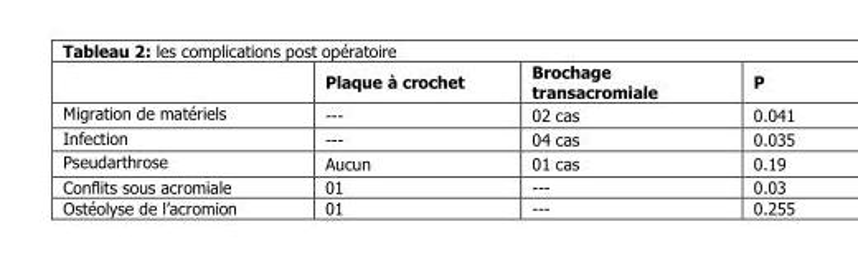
<table><thead><tr><td></td><td>Plaque à crochet</td><td>Brochage transacromiale</td><td>P</td></tr></thead><tbody><tr><td>Migration de matériels</td><td>---</td><td>02 cas</td><td>0.041</td></tr><tr><td>Infection</td><td>---</td><td>04 cas</td><td>0.035</td></tr><tr><td>Pseudarthrose</td><td>Aucun</td><td>01 cas</td><td>0.19</td></tr><tr><td>Conflits sous acromiale</td><td>01</td><td>---</td><td>0.03</td></tr><tr><td>Ostéolyse de l’acromion</td><td>01</td><td>---</td><td>0.255</td></tr></tbody></table>